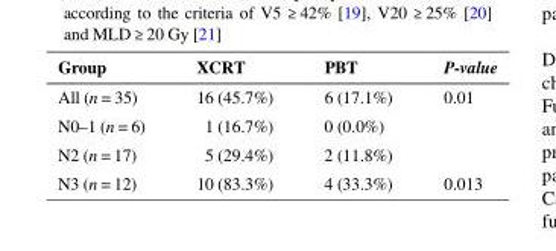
<table><thead><tr><td>Group</td><td>XCRT</td><td>PBT</td><td>P-value</td></tr></thead><tbody><tr><td>All (n = 35)</td><td>16 (45.7%)</td><td>6 (17.1%)</td><td>0.01</td></tr><tr><td>N0–1 (n = 6)</td><td>1 (16.7%)</td><td>0 (0.0%)</td><td></td></tr><tr><td>N2 (n = 17)</td><td>5 (29.4%)</td><td>2 (11.8%)</td><td></td></tr><tr><td>N3 (n = 12)</td><td>10 (83.3%)</td><td>4 (33.3%)</td><td>0.013</td></tr></tbody></table>